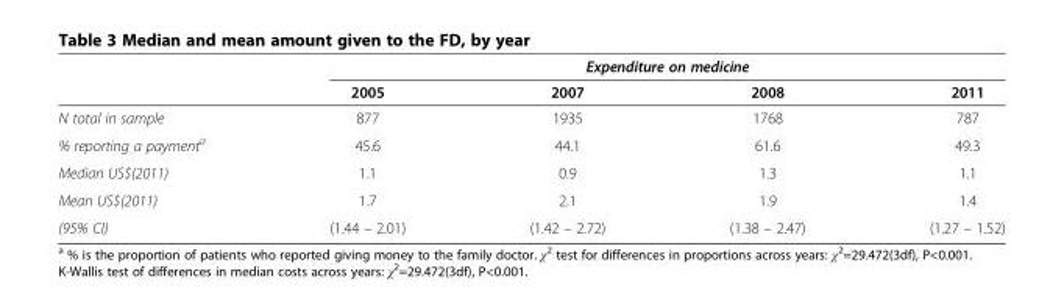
<table><thead><tr><td rowspan="2"></td><td colspan="4">Expenditure on medicine</td></tr><tr><td>2005</td><td>2007</td><td>2008</td><td>2011</td></tr></thead><tbody><tr><td>N total in sample</td><td>877</td><td>1935</td><td>1768</td><td>787</td></tr><tr><td>% reporting a payment<sup>a</sup></td><td>45.6</td><td>44.1</td><td>61.6</td><td>49.3</td></tr><tr><td>Median US$(2011)</td><td>1.1</td><td>0.9</td><td>1.3</td><td>1.1</td></tr><tr><td>Mean US$(2011)</td><td>1.7</td><td>2.1</td><td>1.9</td><td>1.4</td></tr><tr><td>(95% CI)</td><td>(1.44 – 2.01)</td><td>(1.42 – 2.72)</td><td>(1.38 – 2.47)</td><td>(1.27 – 1.52)</td></tr></tbody></table>